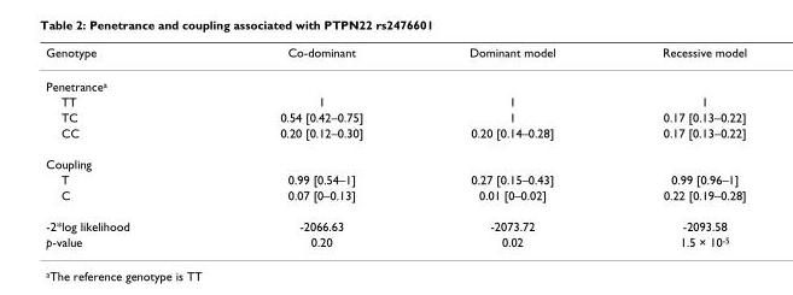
<table><thead><tr><td>Genotype</td><td>Co-dominant</td><td>Dominant model</td><td>Recessive model</td></tr></thead><tbody><tr><td colspan="4">Penetrance<sup>a</sup></td></tr><tr><td>TT</td><td>1</td><td>1</td><td>1</td></tr><tr><td>TC</td><td>0.54 [0.42–0.75]</td><td>1</td><td>0.17 [0.13–0.22]</td></tr><tr><td>CC</td><td>0.20 [0.12–0.30]</td><td>0.20 [0.14–0.28]</td><td>0.17 [0.13–0.22]</td></tr><tr><td colspan="4">Coupling</td></tr><tr><td>T</td><td>0.99 [0.54–1]</td><td>0.27 [0.15–0.43]</td><td>0.99 [0.96–1]</td></tr><tr><td>C</td><td>0.07 [0–0.13]</td><td>0.01 [0–0.02]</td><td>0.22 [0.19–0.28]</td></tr><tr><td>-2*log likelihood</td><td>-2066.63</td><td>-2073.72</td><td>-2093.58</td></tr><tr><td>p-value</td><td>0.20</td><td>0.02</td><td>1.5 × 10<sup>-5</sup></td></tr></tbody></table>